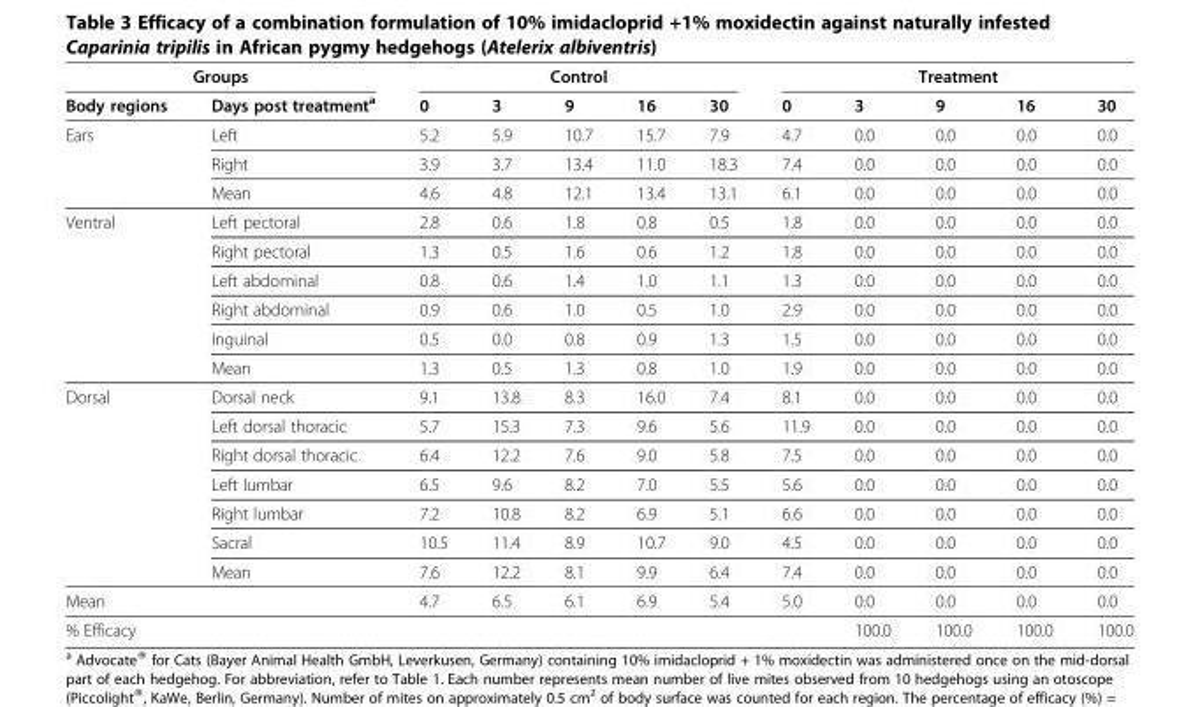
<table><thead><tr><td colspan="2">Groups</td><td colspan="5">Control</td><td colspan="5">Treatment</td></tr><tr><td>Body regions</td><td>Days post treatment<sup>a</sup></td><td>0</td><td>3</td><td>9</td><td>16</td><td>30</td><td>0</td><td>3</td><td>9</td><td>16</td><td>30</td></tr></thead><tbody><tr><td rowspan="3">Ears</td><td>Left</td><td>5.2</td><td>5.9</td><td>10.7</td><td>15.7</td><td>7.9</td><td>4.7</td><td>0.0</td><td>0.0</td><td>0.0</td><td>0.0</td></tr><tr><td>Right</td><td>3.9</td><td>3.7</td><td>13.4</td><td>11.0</td><td>18.3</td><td>7.4</td><td>0.0</td><td>0.0</td><td>0.0</td><td>0.0</td></tr><tr><td>Mean</td><td>4.6</td><td>4.8</td><td>12.1</td><td>13.4</td><td>13.1</td><td>6.1</td><td>0.0</td><td>0.0</td><td>0.0</td><td>0.0</td></tr><tr><td rowspan="6">Ventral</td><td>Left pectoral</td><td>2.8</td><td>0.6</td><td>1.8</td><td>0.8</td><td>0.5</td><td>1.8</td><td>0.0</td><td>0.0</td><td>0.0</td><td>0.0</td></tr><tr><td>Right pectoral</td><td>1.3</td><td>0.5</td><td>1.6</td><td>0.6</td><td>1.2</td><td>1.8</td><td>0.0</td><td>0.0</td><td>0.0</td><td>0.0</td></tr><tr><td>Left abdominal</td><td>0.8</td><td>0.6</td><td>1.4</td><td>1.0</td><td>1.1</td><td>1.3</td><td>0.0</td><td>0.0</td><td>0.0</td><td>0.0</td></tr><tr><td>Right abdominal</td><td>0.9</td><td>0.6</td><td>1.0</td><td>0.5</td><td>1.0</td><td>2.9</td><td>0.0</td><td>0.0</td><td>0.0</td><td>0.0</td></tr><tr><td>Inguinal</td><td>0.5</td><td>0.0</td><td>0.8</td><td>0.9</td><td>1.3</td><td>1.5</td><td>0.0</td><td>0.0</td><td>0.0</td><td>0.0</td></tr><tr><td>Mean</td><td>1.3</td><td>0.5</td><td>1.3</td><td>0.8</td><td>1.0</td><td>1.9</td><td>0.0</td><td>0.0</td><td>0.0</td><td>0.0</td></tr><tr><td rowspan="7">Dorsal</td><td>Dorsal neck</td><td>9.1</td><td>13.8</td><td>8.3</td><td>16.0</td><td>7.4</td><td>8.1</td><td>0.0</td><td>0.0</td><td>0.0</td><td>0.0</td></tr><tr><td>Left dorsal thoracic</td><td>5.7</td><td>15.3</td><td>7.3</td><td>9.6</td><td>5.6</td><td>11.9</td><td>0.0</td><td>0.0</td><td>0.0</td><td>0.0</td></tr><tr><td>Right dorsal thoracic</td><td>6.4</td><td>12.2</td><td>7.6</td><td>9.0</td><td>5.8</td><td>7.5</td><td>0.0</td><td>0.0</td><td>0.0</td><td>0.0</td></tr><tr><td>Left lumbar</td><td>6.5</td><td>9.6</td><td>8.2</td><td>7.0</td><td>5.5</td><td>5.6</td><td>0.0</td><td>0.0</td><td>0.0</td><td>0.0</td></tr><tr><td>Right lumbar</td><td>7.2</td><td>10.8</td><td>8.2</td><td>6.9</td><td>5.1</td><td>6.6</td><td>0.0</td><td>0.0</td><td>0.0</td><td>0.0</td></tr><tr><td>Sacral</td><td>10.5</td><td>11.4</td><td>8.9</td><td>10.7</td><td>9.0</td><td>4.5</td><td>0.0</td><td>0.0</td><td>0.0</td><td>0.0</td></tr><tr><td>Mean</td><td>7.6</td><td>12.2</td><td>8.1</td><td>9.9</td><td>6.4</td><td>7.4</td><td>0.0</td><td>0.0</td><td>0.0</td><td>0.0</td></tr><tr><td>Mean</td><td></td><td>4.7</td><td>6.5</td><td>6.1</td><td>6.9</td><td>5.4</td><td>5.0</td><td>0.0</td><td>0.0</td><td>0.0</td><td>0.0</td></tr><tr><td>% Efficacy</td><td></td><td></td><td></td><td></td><td></td><td></td><td></td><td>100.0</td><td>100.0</td><td>100.0</td><td>100.0</td></tr></tbody></table>